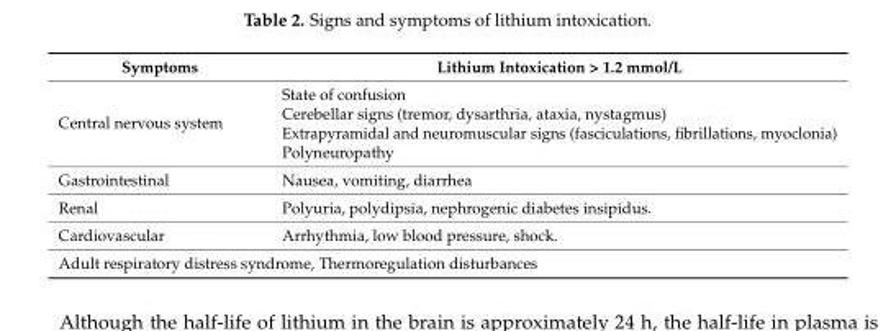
<table><thead><tr><td>Symptoms</td><td>Lithium Intoxication &gt; 1.2 mmol/L</td></tr></thead><tbody><tr><td rowspan="4">Central nervous system</td><td>State of confusion</td></tr><tr><td>Cerebellar signs (tremor, dysarthria, ataxia, nystagmus)</td></tr><tr><td>Extrapyramidal and neuromuscular signs (fasciculations, fibrillations, myoclonia)</td></tr><tr><td>Polyneuropathy</td></tr><tr><td>Gastrointestinal</td><td>Nausea, vomiting, diarrhea</td></tr><tr><td>Renal</td><td>Polyuria, polydipsia, nephrogenic diabetes insipidus.</td></tr><tr><td>Cardiovascular</td><td>Arrhythmia, low blood pressure, shock.</td></tr><tr><td colspan="2">Adult respiratory distress syndrome, Thermoregulation disturbances</td></tr></tbody></table>